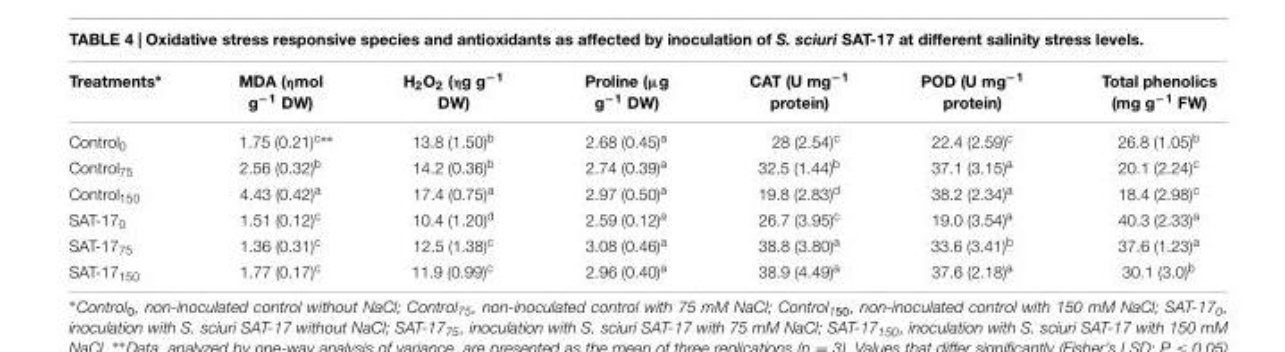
<table><thead><tr><td>Treatments∗</td><td>MDA (ηmol g<sup>−1</sup> DW)</td><td>H<sub>2</sub>O<sub>2</sub> (ηg g<sup>−1</sup> DW)</td><td>Proline (µg g<sup>−1</sup> DW)</td><td>CAT (U mg<sup>−1</sup> protein)</td><td>POD (U mg<sup>−1</sup> protein)</td><td>Total phenolics (mg g<sup>−1</sup> FW)</td></tr></thead><tbody><tr><td>Control<sub>0</sub></td><td>1.75 (0.21)<sup>c∗∗</sup></td><td>13.8 (1.50)<sup>b</sup></td><td>2.68 (0.45)<sup>a</sup></td><td>28 (2.54)<sup>c</sup></td><td>22.4 (2.59)<sup>c</sup></td><td>26.8 (1.05)<sup>b</sup></td></tr><tr><td>Control<sub>75</sub></td><td>2.56 (0.32)<sup>b</sup></td><td>14.2 (0.36)<sup>b</sup></td><td>2.74 (0.39)<sup>a</sup></td><td>32.5 (1.44)<sup>b</sup></td><td>37.1 (3.15)<sup>a</sup></td><td>20.1 (2.24)<sup>c</sup></td></tr><tr><td>Control<sub>150</sub></td><td>4.43 (0.42)<sup>a</sup></td><td>17.4 (0.75)<sup>a</sup></td><td>2.97 (0.50)<sup>a</sup></td><td>19.8 (2.83)<sup>d</sup></td><td>38.2 (2.34)<sup>a</sup></td><td>18.4 (2.98)<sup>c</sup></td></tr><tr><td>SAT-17<sub>0</sub></td><td>1.51 (0.12)<sup>c</sup></td><td>10.4 (1.20)<sup>d</sup></td><td>2.59 (0.12)<sup>a</sup></td><td>26.7 (3.95)<sup>c</sup></td><td>19.0 (3.54)<sup>a</sup></td><td>40.3 (2.33)<sup>a</sup></td></tr><tr><td>SAT-17<sub>75</sub></td><td>1.36 (0.31)<sup>c</sup></td><td>12.5 (1.38)<sup>c</sup></td><td>3.08 (0.46)<sup>a</sup></td><td>38.8 (3.80)<sup>a</sup></td><td>33.6 (3.41)<sup>b</sup></td><td>37.6 (1.23)<sup>a</sup></td></tr><tr><td>SAT-17<sub>150</sub></td><td>1.77 (0.17)<sup>c</sup></td><td>11.9 (0.99)<sup>c</sup></td><td>2.96 (0.40)<sup>a</sup></td><td>38.9 (4.49)<sup>a</sup></td><td>37.6 (2.18)<sup>a</sup></td><td>30.1 (3.0)<sup>b</sup></td></tr></tbody></table>